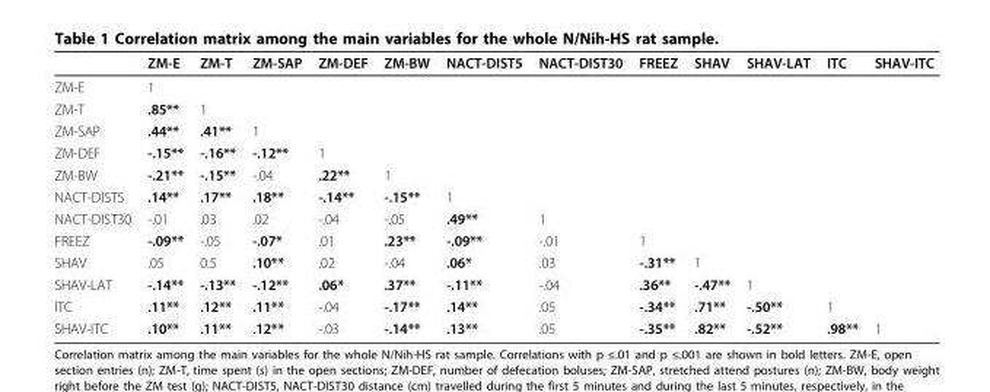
<table><thead><tr><td></td><td>ZM-E</td><td>ZM-T</td><td>ZM-SAP</td><td>ZM-DEF</td><td>ZM-BW</td><td>NACT-DIST5</td><td>NACT-DIST30</td><td>FREEZ</td><td>SHAV</td><td>SHAV-LAT</td><td>ITC</td><td>SHAV-ITC</td></tr></thead><tbody><tr><td>ZM-E</td><td>1</td><td></td><td></td><td></td><td></td><td></td><td></td><td></td><td></td><td></td><td></td><td></td></tr><tr><td>ZM-T</td><td>.85**</td><td>1</td><td></td><td></td><td></td><td></td><td></td><td></td><td></td><td></td><td></td><td></td></tr><tr><td>ZM-SAP</td><td>.44**</td><td>.41**</td><td>1</td><td></td><td></td><td></td><td></td><td></td><td></td><td></td><td></td><td></td></tr><tr><td>ZM-DEF</td><td>-.15**</td><td>-.16**</td><td>-.12**</td><td>1</td><td></td><td></td><td></td><td></td><td></td><td></td><td></td><td></td></tr><tr><td>ZM-BW</td><td>-.21**</td><td>-.15**</td><td>-.04</td><td>.22**</td><td>1</td><td></td><td></td><td></td><td></td><td></td><td></td><td></td></tr><tr><td>NACT-DIST5</td><td>.14**</td><td>.17**</td><td>.18**</td><td>-.14**</td><td>-.15**</td><td>1</td><td></td><td></td><td></td><td></td><td></td><td></td></tr><tr><td>NACT-DIST30</td><td>-.01</td><td>.03</td><td>.02</td><td>-.04</td><td>-.05</td><td>.49**</td><td>1</td><td></td><td></td><td></td><td></td><td></td></tr><tr><td>FREEZ</td><td>-.09**</td><td>-.05</td><td>-.07*</td><td>.01</td><td>.23**</td><td>-.09**</td><td>-.01</td><td>1</td><td></td><td></td><td></td><td></td></tr><tr><td>SHAV</td><td>.05</td><td>0.5</td><td>.10**</td><td>.02</td><td>-.04</td><td>.06*</td><td>.03</td><td>-.31**</td><td>1</td><td></td><td></td><td></td></tr><tr><td>SHAV-LAT</td><td>-.14**</td><td>-.13**</td><td>-.12**</td><td>.06*</td><td>.37**</td><td>-.11**</td><td>-.04</td><td>.36**</td><td>-.47**</td><td>1</td><td></td><td></td></tr><tr><td>ITC</td><td>.11**</td><td>.12**</td><td>.11**</td><td>-.04</td><td>-.17**</td><td>.14**</td><td>.05</td><td>-.34**</td><td>.71**</td><td>-.50**</td><td>1</td><td></td></tr><tr><td>SHAV-ITC</td><td>.10**</td><td>.11**</td><td>.12**</td><td>-.03</td><td>-.14**</td><td>.13**</td><td>.05</td><td>-.35**</td><td>.82**</td><td>-.52**</td><td>.98**</td><td>1</td></tr></tbody></table>